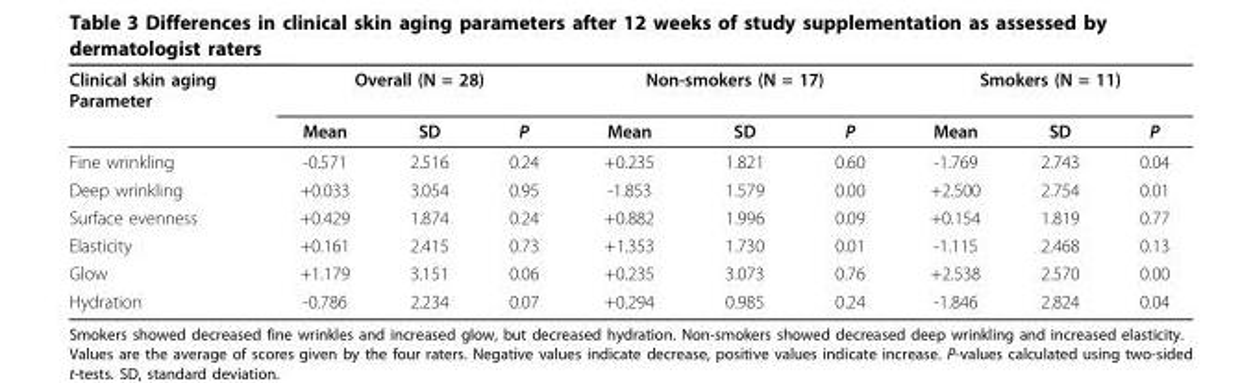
<table><thead><tr><td rowspan="2">Clinical skin aging Parameter</td><td colspan="3">Overall (N = 28)</td><td colspan="3">Non-smokers (N = 17)</td><td colspan="3">Smokers (N = 11)</td></tr><tr><td>Mean</td><td>SD</td><td>P</td><td>Mean</td><td>SD</td><td>P</td><td>Mean</td><td>SD</td><td>P</td></tr></thead><tbody><tr><td>Fine wrinkling</td><td>-0.571</td><td>2.516</td><td>0.24</td><td>+0.235</td><td>1.821</td><td>0.60</td><td>-1.769</td><td>2.743</td><td>0.04</td></tr><tr><td>Deep wrinkling</td><td>+0.033</td><td>3.054</td><td>0.95</td><td>-1.853</td><td>1.579</td><td>0.00</td><td>+2.500</td><td>2.754</td><td>0.01</td></tr><tr><td>Surface evenness</td><td>+0.429</td><td>1.874</td><td>0.24</td><td>+0.882</td><td>1.996</td><td>0.09</td><td>+0.154</td><td>1.819</td><td>0.77</td></tr><tr><td>Elasticity</td><td>+0.161</td><td>2.415</td><td>0.73</td><td>+1.353</td><td>1.730</td><td>0.01</td><td>-1.115</td><td>2.468</td><td>0.13</td></tr><tr><td>Glow</td><td>+1.179</td><td>3.151</td><td>0.06</td><td>+0.235</td><td>3.073</td><td>0.76</td><td>+2.538</td><td>2.570</td><td>0.00</td></tr><tr><td>Hydration</td><td>-0.786</td><td>2.234</td><td>0.07</td><td>+0.294</td><td>0.985</td><td>0.24</td><td>-1.846</td><td>2.824</td><td>0.04</td></tr></tbody></table>